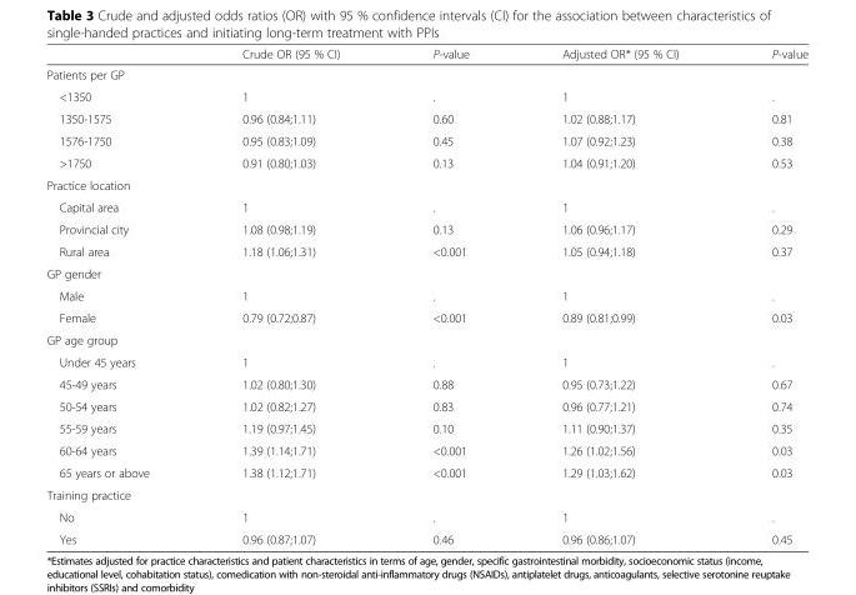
<table><thead><tr><td></td><td>Crude OR (95 % CI)</td><td>P-value</td><td>Adjusted OR* (95 % CI)</td><td>P-value</td></tr></thead><tbody><tr><td colspan="5">Patients per GP</td></tr><tr><td>&lt;1350</td><td>1</td><td>.</td><td>1</td><td>.</td></tr><tr><td>1350-1575</td><td>0.96 (0.84;1.11)</td><td>0.60</td><td>1.02 (0.88;1.17)</td><td>0.81</td></tr><tr><td>1576-1750</td><td>0.95 (0.83;1.09)</td><td>0.45</td><td>1.07 (0.92;1.23)</td><td>0.38</td></tr><tr><td>&gt;1750</td><td>0.91 (0.80;1.03)</td><td>0.13</td><td>1.04 (0.91;1.20)</td><td>0.53</td></tr><tr><td colspan="5">Practice location</td></tr><tr><td>Capital area</td><td>1</td><td>.</td><td>1</td><td>.</td></tr><tr><td>Provincial city</td><td>1.08 (0.98;1.19)</td><td>0.13</td><td>1.06 (0.96;1.17)</td><td>0.29</td></tr><tr><td>Rural area</td><td>1.18 (1.06;1.31)</td><td>&lt;0.001</td><td>1.05 (0.94;1.18)</td><td>0.37</td></tr><tr><td colspan="5">GP gender</td></tr><tr><td>Male</td><td>1</td><td>.</td><td>1</td><td>.</td></tr><tr><td>Female</td><td>0.79 (0.72;0.87)</td><td>&lt;0.001</td><td>0.89 (0.81;0.99)</td><td>0.03</td></tr><tr><td colspan="5">GP age group</td></tr><tr><td>Under 45 years</td><td>1</td><td>.</td><td>1</td><td>.</td></tr><tr><td>45-49 years</td><td>1.02 (0.80;1.30)</td><td>0.88</td><td>0.95 (0.73;1.22)</td><td>0.67</td></tr><tr><td>50-54 years</td><td>1.02 (0.82;1.27)</td><td>0.83</td><td>0.96 (0.77;1.21)</td><td>0.74</td></tr><tr><td>55-59 years</td><td>1.19 (0.97;1.45)</td><td>0.10</td><td>1.11 (0.90;1.37)</td><td>0.35</td></tr><tr><td>60-64 years</td><td>1.39 (1.14;1.71)</td><td>&lt;0.001</td><td>1.26 (1.02;1.56)</td><td>0.03</td></tr><tr><td>65 years or above</td><td>1.38 (1.12;1.71)</td><td>&lt;0.001</td><td>1.29 (1.03;1.62)</td><td>0.03</td></tr><tr><td colspan="5">Training practice</td></tr><tr><td>No</td><td>1</td><td>.</td><td>1</td><td>.</td></tr><tr><td>Yes</td><td>0.96 (0.87;1.07)</td><td>0.46</td><td>0.96 (0.86;1.07)</td><td>0.45</td></tr></tbody></table>